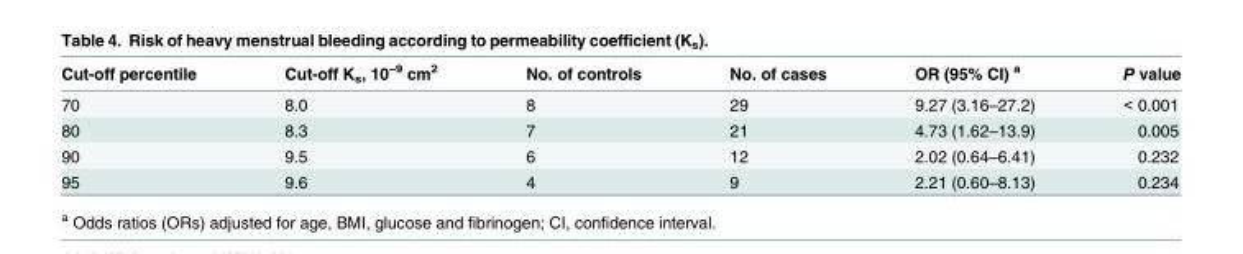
<table><thead><tr><td>Cut-off percentile</td><td>Cut-off K<sub>s</sub>, 10<sup>–9</sup> cm<sup>2</sup></td><td>No. of controls</td><td>No. of cases</td><td>OR (95% CI) <sup>a</sup></td><td>P value</td></tr></thead><tbody><tr><td>70</td><td>8.0</td><td>8</td><td>29</td><td>9.27 (3.16–27.2)</td><td>&lt; 0.001</td></tr><tr><td>80</td><td>8.3</td><td>7</td><td>21</td><td>4.73 (1.62–13.9)</td><td>0.005</td></tr><tr><td>90</td><td>9.5</td><td>6</td><td>12</td><td>2.02 (0.64–6.41)</td><td>0.232</td></tr><tr><td>95</td><td>9.6</td><td>4</td><td>9</td><td>2.21 (0.60–8.13)</td><td>0.234</td></tr></tbody></table>